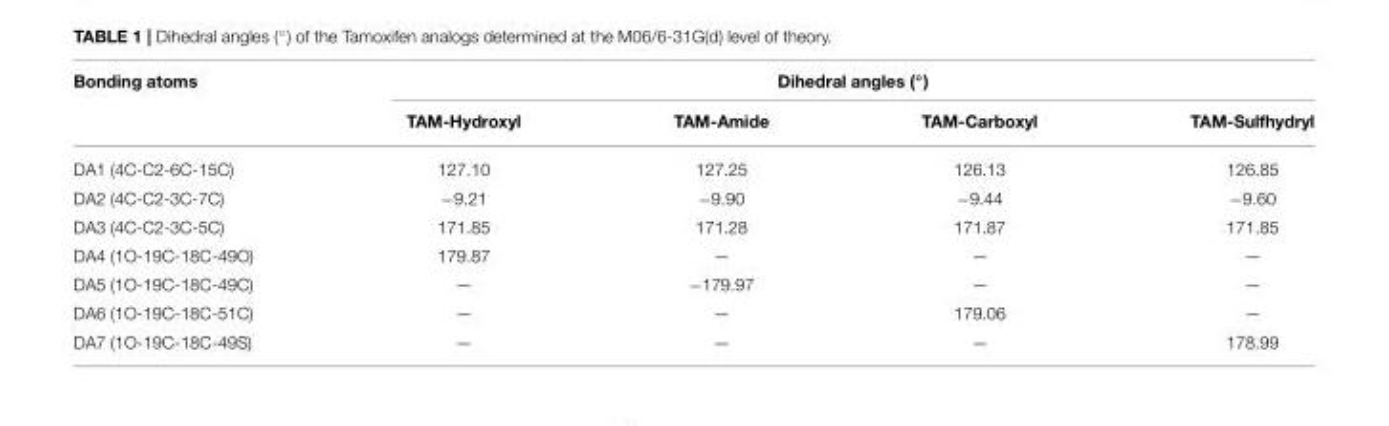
<table><thead><tr><td rowspan="2">Bonding atoms</td><td colspan="4">Dihedral angles (◦)</td></tr><tr><td>TAM-Hydroxyl</td><td>TAM-Amide</td><td>TAM-Carboxyl</td><td>TAM-Sulfhydryl</td></tr></thead><tbody><tr><td>DA1 (4C-C2-6C-15C)</td><td>127.10</td><td>127.25</td><td>126.13</td><td>126.85</td></tr><tr><td>DA2 (4C-C2-3C-7C)</td><td>−9.21</td><td>−9.90</td><td>−9.44</td><td>−9.60</td></tr><tr><td>DA3 (4C-C2-3C-5C)</td><td>171.85</td><td>171.28</td><td>171.87</td><td>171.85</td></tr><tr><td>DA4 (1O-19C-18C-49O)</td><td>179.87</td><td>—</td><td>—</td><td>—</td></tr><tr><td>DA5 (1O-19C-18C-49C)</td><td>—</td><td>−179.97</td><td>—</td><td>—</td></tr><tr><td>DA6 (1O-19C-18C-51C)</td><td>—</td><td>—</td><td>179.06</td><td>—</td></tr><tr><td>DA7 (1O-19C-18C-49S)</td><td>—</td><td>—</td><td>—</td><td>178.99</td></tr></tbody></table>